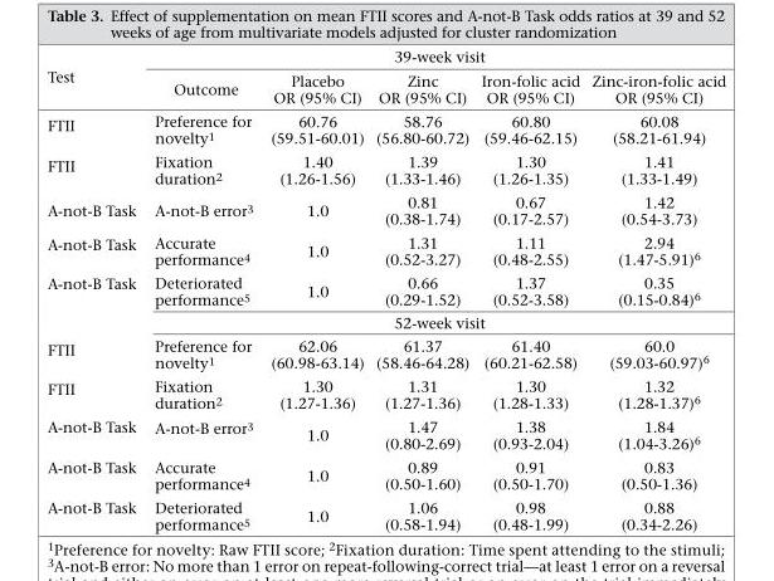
<table><thead><tr><td rowspan="2">Test</td><td colspan="5">39-week visit</td></tr><tr><td>Outcome</td><td>Placebo OR (95% CI)</td><td>Zinc OR (95% CI)</td><td>Iron-folic acid OR (95% CI)</td><td>Zinc-iron-folic acid OR (95% CI)</td></tr></thead><tbody><tr><td>FTII</td><td>Preference for novelty<sup>1</sup></td><td>60.76 (59.51-60.01)</td><td>58.76 (56.80-60.72)</td><td>60.80 (59.46-62.15)</td><td>60.08 (58.21-61.94)</td></tr><tr><td>FTII</td><td>Fixation duration<sup>2</sup></td><td>1.40 (1.26-1.56)</td><td>1.39 (1.33-1.46)</td><td>1.30 (1.26-1.35)</td><td>1.41 (1.33-1.49)</td></tr><tr><td>A-not-B Task</td><td>A-not-B error<sup>3</sup></td><td>1.0</td><td>0.81 (0.38-1.74)</td><td>0.67 (0.17-2.57)</td><td>1.42 (0.54-3.73)</td></tr><tr><td>A-not-B Task</td><td>Accurate performance<sup>4</sup></td><td>1.0</td><td>1.31 (0.52-3.27)</td><td>1.11 (0.48-2.55)</td><td>2.94 (1.47-5.91)6</td></tr><tr><td rowspan="2">A-not-B Task</td><td>Deteriorated performance<sup>5</sup></td><td>1.0</td><td>0.66 (0.29-1.52)</td><td>1.37 (0.52-3.58)</td><td>0.35 (0.15-0.84)6</td></tr><tr><td colspan="5">52-week visit</td></tr><tr><td>FTII</td><td>Preference for novelty<sup>1</sup></td><td>62.06 (60.98-63.14)</td><td>61.37 (58.46-64.28)</td><td>61.40 (60.21-62.58)</td><td>60.0 (59.03-60.97)6</td></tr><tr><td>FTII</td><td>Fixation duration<sup>2</sup></td><td>1.30 (1.27-1.36)</td><td>1.31 (1.27-1.36)</td><td>1.30 (1.28-1.33)</td><td>1.32 (1.28-1.37)6</td></tr><tr><td>A-not-B Task</td><td>A-not-B error<sup>3</sup></td><td>1.0</td><td>1.47 (0.80-2.69)</td><td>1.38 (0.93-2.04)</td><td>1.84 (1.04-3.26)6</td></tr><tr><td>A-not-B Task</td><td>Accurate performance<sup>4</sup></td><td>1.0</td><td>0.89 (0.50-1.60)</td><td>0.91 (0.50-1.70)</td><td>0.83 (0.50-1.36)</td></tr><tr><td>A-not-B Task</td><td>Deteriorated performance<sup>5</sup></td><td>1.0</td><td>1.06 (0.58-1.94)</td><td>0.98 (0.48-1.99)</td><td>0.88 (0.34-2.26)</td></tr></tbody></table>